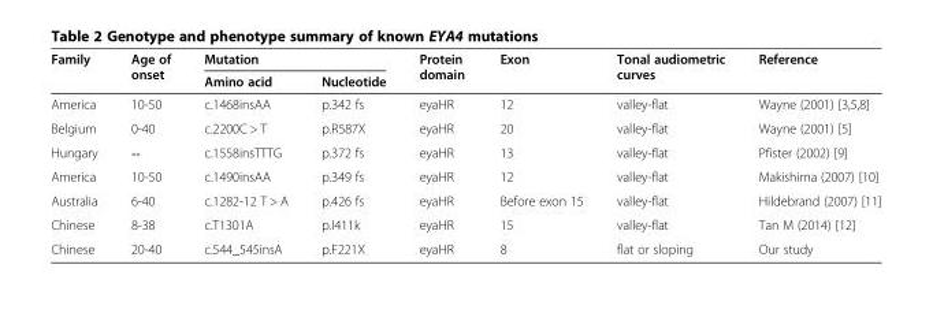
<table><thead><tr><td rowspan="2">Family</td><td rowspan="2">Age of onset</td><td colspan="2">Mutation</td><td rowspan="2">Protein domain</td><td rowspan="2">Exon</td><td rowspan="2">Tonal audiometric curves</td><td rowspan="2">Reference</td></tr><tr><td>Amino acid</td><td>Nucleotide</td></tr></thead><tbody><tr><td>America</td><td>10-50</td><td>c.1468insAA</td><td>p.342 fs</td><td>eyaHR</td><td>12</td><td>valley-flat</td><td>Wayne (2001) [3,5,8]</td></tr><tr><td>Belgium</td><td>0-40</td><td>c.2200C &gt; T</td><td>p.R587X</td><td>eyaHR</td><td>20</td><td>valley-flat</td><td>Wayne (2001) [5]</td></tr><tr><td>Hungary</td><td>--</td><td>c.1558insTTTG</td><td>p.372 fs</td><td>eyaHR</td><td>13</td><td>valley-flat</td><td>Pfister (2002) [9]</td></tr><tr><td>America</td><td>10-50</td><td>c.1490insAA</td><td>p.349 fs</td><td>eyaHR</td><td>12</td><td>valley-flat</td><td>Makishima (2007) [10]</td></tr><tr><td>Australia</td><td>6-40</td><td>c.1282-12 T &gt; A</td><td>p.426 fs</td><td>eyaHR</td><td>Before exon 15</td><td>valley-flat</td><td>Hildebrand (2007) [11]</td></tr><tr><td>Chinese</td><td>8-38</td><td>c.T1301A</td><td>p.I411k</td><td>eyaHR</td><td>15</td><td>valley-flat</td><td>Tan M (2014) [12]</td></tr><tr><td>Chinese</td><td>20-40</td><td>c.544_545insA</td><td>p.F221X</td><td>eyaHR</td><td>8</td><td>flat or sloping</td><td>Our study</td></tr></tbody></table>